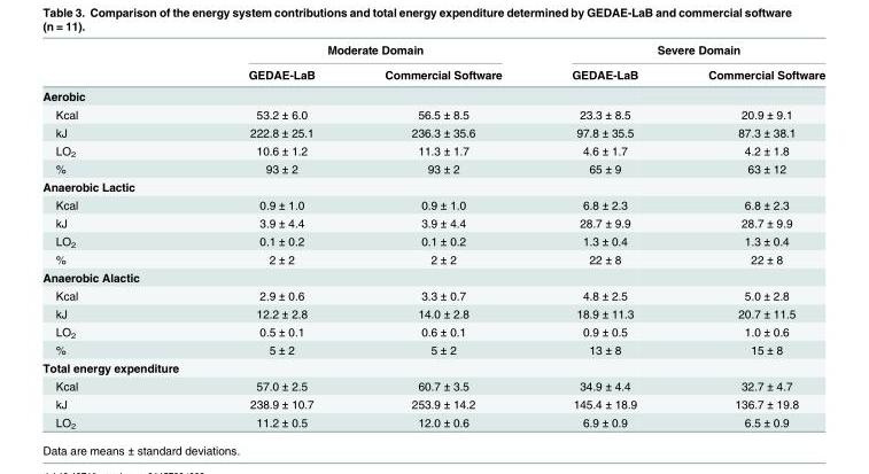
<table><thead><tr><td rowspan="2"></td><td colspan="2">Moderate Domain</td><td colspan="2">Severe Domain</td></tr><tr><td>GEDAE-LaB</td><td>Commercial Software</td><td>GEDAE-LaB</td><td>Commercial Software</td></tr></thead><tbody><tr><td colspan="5">Aerobic</td></tr><tr><td>Kcal</td><td>53.2 ± 6.0</td><td>56.5 ± 8.5</td><td>23.3 ± 8.5</td><td>20.9 ± 9.1</td></tr><tr><td>kJ</td><td>222.8 ± 25.1</td><td>236.3 ± 35.6</td><td>97.8 ± 35.5</td><td>87.3 ± 38.1</td></tr><tr><td>LO<sub>2</sub></td><td>10.6 ± 1.2</td><td>11.3 ± 1.7</td><td>4.6 ± 1.7</td><td>4.2 ± 1.8</td></tr><tr><td>%</td><td>93 ± 2</td><td>93 ± 2</td><td>65 ± 9</td><td>63 ± 12</td></tr><tr><td colspan="5">Anaerobic Lactic</td></tr><tr><td>Kcal</td><td>0.9 ± 1.0</td><td>0.9 ± 1.0</td><td>6.8 ± 2.3</td><td>6.8 ± 2.3</td></tr><tr><td>kJ</td><td>3.9 ± 4.4</td><td>3.9 ± 4.4</td><td>28.7 ± 9.9</td><td>28.7 ± 9.9</td></tr><tr><td>LO<sub>2</sub></td><td>0.1 ± 0.2</td><td>0.1 ± 0.2</td><td>1.3 ± 0.4</td><td>1.3 ± 0.4</td></tr><tr><td>%</td><td>2 ± 2</td><td>2 ± 2</td><td>22 ± 8</td><td>22 ± 8</td></tr><tr><td colspan="5">Anaerobic Alactic</td></tr><tr><td>Kcal</td><td>2.9 ± 0.6</td><td>3.3 ± 0.7</td><td>4.8 ± 2.5</td><td>5.0 ± 2.8</td></tr><tr><td>kJ</td><td>12.2 ± 2.8</td><td>14.0 ± 2.8</td><td>18.9 ± 11.3</td><td>20.7 ± 11.5</td></tr><tr><td>LO<sub>2</sub></td><td>0.5 ± 0.1</td><td>0.6 ± 0.1</td><td>0.9 ± 0.5</td><td>1.0 ± 0.6</td></tr><tr><td>%</td><td>5 ± 2</td><td>5 ± 2</td><td>13 ± 8</td><td>15 ± 8</td></tr><tr><td colspan="5">Total energy expenditure</td></tr><tr><td>Kcal</td><td>57.0 ± 2.5</td><td>60.7 ± 3.5</td><td>34.9 ± 4.4</td><td>32.7 ± 4.7</td></tr><tr><td>kJ</td><td>238.9 ± 10.7</td><td>253.9 ± 14.2</td><td>145.4 ± 18.9</td><td>136.7 ± 19.8</td></tr><tr><td>LO<sub>2</sub></td><td>11.2 ± 0.5</td><td>12.0 ± 0.6</td><td>6.9 ± 0.9</td><td>6.5 ± 0.9</td></tr></tbody></table>